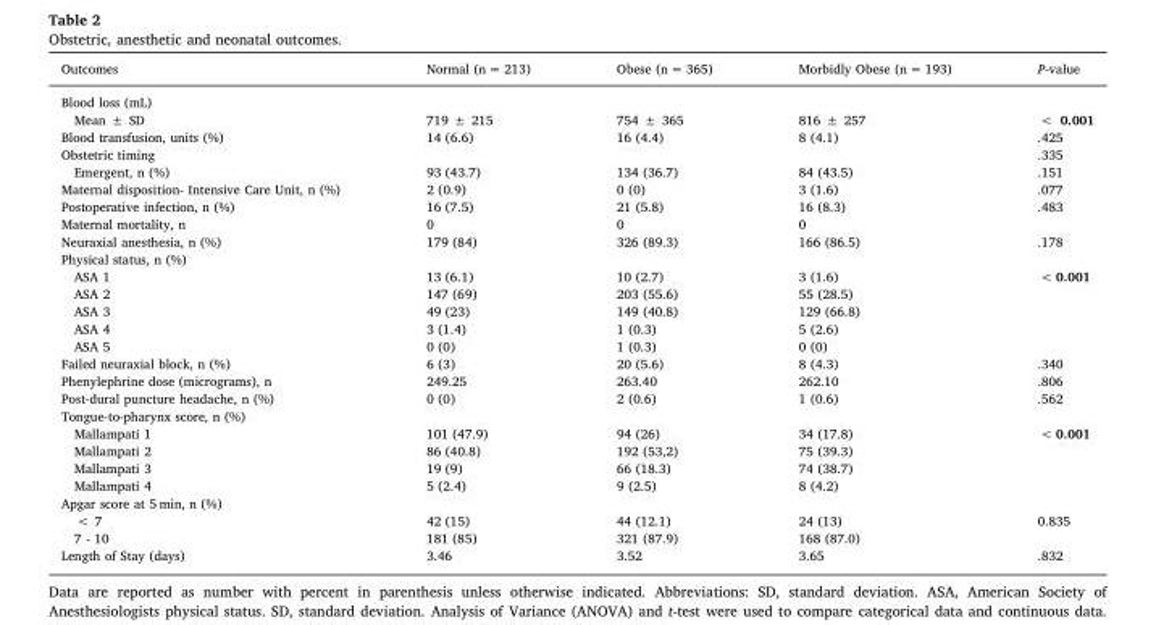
<table><thead><tr><td>Outcomes</td><td>Normal (n = 213)</td><td>Obese (n = 365)</td><td>Morbidly Obese (n = 193)</td><td>P-value</td></tr></thead><tbody><tr><td colspan="5">Blood loss (mL)</td></tr><tr><td>Mean ± SD</td><td>719 ± 215</td><td>754 ± 365</td><td>816 ± 257</td><td>&lt; 0.001</td></tr><tr><td>Blood transfusion, units (%)</td><td>14 (6.6)</td><td>16 (4.4)</td><td>8 (4.1)</td><td>.425</td></tr><tr><td>Obstetric timing</td><td colspan="3"></td><td>.335</td></tr><tr><td>Emergent, n (%)</td><td>93 (43.7)</td><td>134 (36.7)</td><td>84 (43.5)</td><td>.151</td></tr><tr><td>Maternal disposition- Intensive Care Unit, n (%)</td><td>2 (0.9)</td><td>0 (0)</td><td>3 (1.6)</td><td>.077</td></tr><tr><td>Postoperative infection, n (%)</td><td>16 (7.5)</td><td>21 (5.8)</td><td>16 (8.3)</td><td>.483</td></tr><tr><td>Maternal mortality, n</td><td>0</td><td>0</td><td>0</td><td></td></tr><tr><td>Neuraxial anesthesia, n (%)</td><td>179 (84)</td><td>326 (89.3)</td><td>166 (86.5)</td><td>.178</td></tr><tr><td colspan="5">Physical status, n (%)</td></tr><tr><td>ASA 1</td><td>13 (6.1)</td><td>10 (2.7)</td><td>3 (1.6)</td><td rowspan="5">&lt; 0.001</td></tr><tr><td>ASA 2</td><td>147 (69)</td><td>203 (55.6)</td><td>55 (28.5)</td></tr><tr><td>ASA 3</td><td>49 (23)</td><td>149 (40.8)</td><td>129 (66.8)</td></tr><tr><td>ASA 4</td><td>3 (1.4)</td><td>1 (0.3)</td><td>5 (2.6)</td></tr><tr><td>ASA 5</td><td>0 (0)</td><td>1 (0.3)</td><td>0 (0)</td></tr><tr><td>Failed neuraxial block, n (%)</td><td>6 (3)</td><td>20 (5.6)</td><td>8 (4.3)</td><td>.340</td></tr><tr><td>Phenylephrine dose (micrograms), n</td><td>249.25</td><td>263.40</td><td>262.10</td><td>.806</td></tr><tr><td>Post-dural puncture headache, n (%)</td><td>0 (0)</td><td>2 (0.6)</td><td>1 (0.6)</td><td>.562</td></tr><tr><td colspan="5">Tongue-to-pharynx score, n (%)</td></tr><tr><td>Mallampati 1</td><td>101 (47.9)</td><td>94 (26)</td><td>34 (17.8)</td><td rowspan="4">&lt; 0.001</td></tr><tr><td>Mallampati 2</td><td>86 (40.8)</td><td>192 (53,2)</td><td>75 (39.3)</td></tr><tr><td>Mallampati 3</td><td>19 (9)</td><td>66 (18.3)</td><td>74 (38.7)</td></tr><tr><td>Mallampati 4</td><td>5 (2.4)</td><td>9 (2.5)</td><td>8 (4.2)</td></tr><tr><td colspan="5">Apgar score at 5 min, n (%)</td></tr><tr><td>&lt; 7</td><td>42 (15)</td><td>44 (12.1)</td><td>24 (13)</td><td rowspan="2">0.835</td></tr><tr><td>7 - 10</td><td>181 (85)</td><td>321 (87.9)</td><td>168 (87.0)</td></tr><tr><td>Length of Stay (days)</td><td>3.46</td><td>3.52</td><td>3.65</td><td>.832</td></tr></tbody></table>